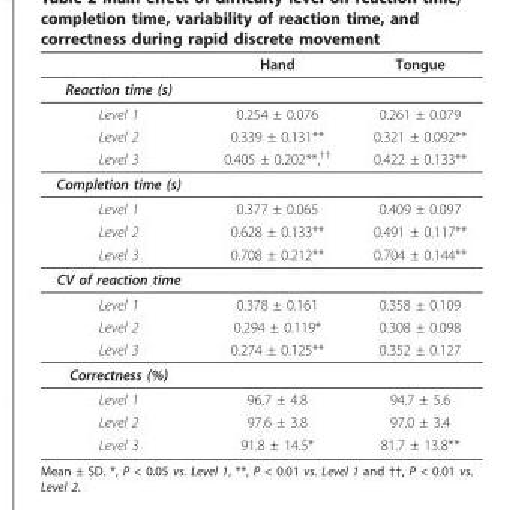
<table><thead><tr><td></td><td>Hand</td><td>Tongue</td></tr></thead><tbody><tr><td colspan="3">Reaction time (s)</td></tr><tr><td>Level 1</td><td>0.254 ± 0.076</td><td>0.261 ± 0.079</td></tr><tr><td>Level 2</td><td>0.339 ± 0.131**</td><td>0.321 ± 0.092**</td></tr><tr><td>Level 3</td><td>0.405 ± 0.202**,<sup>††</sup></td><td>0.422 ± 0.133**</td></tr><tr><td colspan="3">Completion time (s)</td></tr><tr><td>Level 1</td><td>0.377 ± 0.065</td><td>0.409 ± 0.097</td></tr><tr><td>Level 2</td><td>0.628 ± 0.133**</td><td>0.491 ± 0.117**</td></tr><tr><td>Level 3</td><td>0.708 ± 0.212**</td><td>0.704 ± 0.144**</td></tr><tr><td colspan="3">CV of reaction time</td></tr><tr><td>Level 1</td><td>0.378 ± 0.161</td><td>0.358 ± 0.109</td></tr><tr><td>Level 2</td><td>0.294 ± 0.119*</td><td>0.308 ± 0.098</td></tr><tr><td>Level 3</td><td>0.274 ± 0.125**</td><td>0.352 ± 0.127</td></tr><tr><td colspan="3">Correctness (%)</td></tr><tr><td>Level 1</td><td>96.7 ± 4.8</td><td>94.7 ± 5.6</td></tr><tr><td>Level 2</td><td>97.6 ± 3.8</td><td>97.0 ± 3.4</td></tr><tr><td>Level 3</td><td>91.8 ± 14.5*</td><td>81.7 ± 13.8**</td></tr></tbody></table>